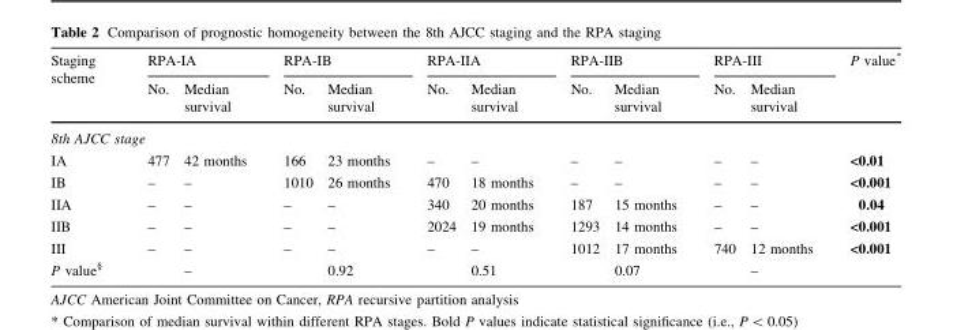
<table><thead><tr><td rowspan="2">Staging scheme</td><td colspan="2">RPA-IA</td><td colspan="2">RPA-IB</td><td colspan="2">RPA-IIA</td><td colspan="2">RPA-IIB</td><td colspan="2">RPA-III</td><td rowspan="2">P value*</td></tr><tr><td>No.</td><td>Median survival</td><td>No.</td><td>Median survival</td><td>No.</td><td>Median survival</td><td>No.</td><td>Median survival</td><td>No.</td><td>Median survival</td></tr></thead><tbody><tr><td colspan="12">8th AJCC stage</td></tr><tr><td>IA</td><td>477</td><td>42 months</td><td>166</td><td>23 months</td><td>–</td><td>–</td><td>–</td><td>–</td><td>–</td><td>–</td><td>&lt;0.01</td></tr><tr><td>IB</td><td>–</td><td>–</td><td>1010</td><td>26 months</td><td>470</td><td>18 months</td><td>–</td><td>–</td><td>–</td><td>–</td><td>&lt;0.001</td></tr><tr><td>IIA</td><td>–</td><td>–</td><td>–</td><td>–</td><td>340</td><td>20 months</td><td>187</td><td>15 months</td><td>–</td><td>–</td><td>0.04</td></tr><tr><td>IIB</td><td>–</td><td>–</td><td>–</td><td>–</td><td>2024</td><td>19 months</td><td>1293</td><td>14 months</td><td>–</td><td>–</td><td>&lt;0.001</td></tr><tr><td>III</td><td>–</td><td>–</td><td>–</td><td>–</td><td>–</td><td>–</td><td>1012</td><td>17 months</td><td>740</td><td>12 months</td><td>&lt;0.001</td></tr><tr><td>P value<sup>§</sup></td><td></td><td>–</td><td></td><td>0.92</td><td></td><td>0.51</td><td></td><td>0.07</td><td></td><td>–</td><td></td></tr></tbody></table>